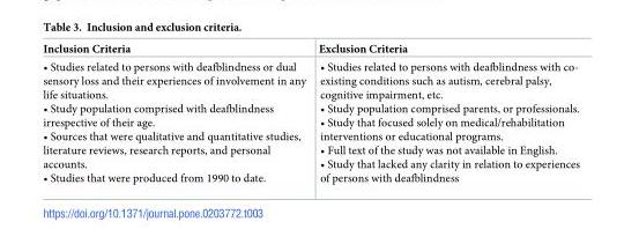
<table><thead><tr><td>Inclusion Criteria</td><td>Exclusion Criteria</td></tr></thead><tbody><tr><td>• Studies related to persons with deafblindness or dual sensory loss and their experiences of involvement in any life situations. • Study population comprised with deafblindness irrespective of their age. • Sources that were qualitative and quantitative studies, literature reviews, research reports, and personal accounts. • Studies that were produced from 1990 to date.</td><td>• Studies related to persons with deafblindness with co- existing conditions such as autism, cerebral palsy, cognitive impairment, etc. • Study population comprised parents, or professionals. • Study that focused solely on medical/rehabilitation interventions or educational programs. • Full text of the study was not available in English. • Study that lacked any clarity in relation to experiences of persons with deafblindness</td></tr></tbody></table>